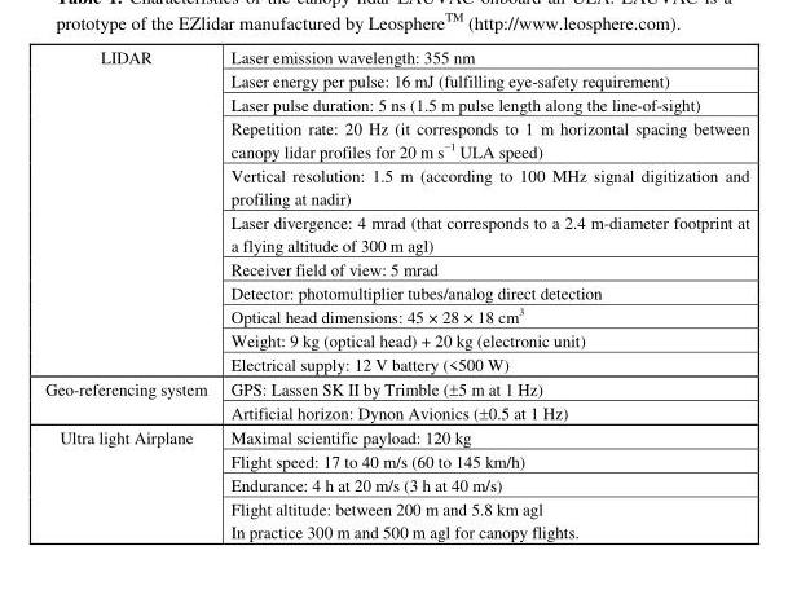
<table><tbody><tr><td rowspan="11">LIDAR</td><td>Laser emission wavelength: 355 nm</td></tr><tr><td>Laser energy per pulse: 16 mJ (fulfilling eye-safety requirement)</td></tr><tr><td>Laser pulse duration: 5 ns (1.5 m pulse length along the line-of-sight)</td></tr><tr><td>Repetition rate: 20 Hz (it corresponds to 1 m horizontal spacing between canopy lidar profiles for 20 m s<sup>−1</sup> ULA speed)</td></tr><tr><td>Vertical resolution: 1.5 m (according to 100 MHz signal digitization and profiling at nadir)</td></tr><tr><td>Laser divergence: 4 mrad (that corresponds to a 2.4 m-diameter footprint at a flying altitude of 300 m agl)</td></tr><tr><td>Receiver field of view: 5 mrad</td></tr><tr><td>Detector: photomultiplier tubes/analog direct detection</td></tr><tr><td>Optical head dimensions: 45 × 28 × 18 cm<sup>3</sup></td></tr><tr><td>Weight: 9 kg (optical head) + 20 kg (electronic unit)</td></tr><tr><td>Electrical supply: 12 V battery (&lt;500 W)</td></tr><tr><td rowspan="2">Geo-referencing system</td><td>GPS: Lassen SK II by Trimble (±5 m at 1 Hz)</td></tr><tr><td>Artificial horizon: Dynon Avionics (±0.5 at 1 Hz)</td></tr><tr><td rowspan="4">Ultra light Airplane</td><td>Maximal scientific payload: 120 kg</td></tr><tr><td>Flight speed: 17 to 40 m/s (60 to 145 km/h)</td></tr><tr><td>Endurance: 4 h at 20 m/s (3 h at 40 m/s)</td></tr><tr><td>Flight altitude: between 200 m and 5.8 km agl In practice 300 m and 500 m agl for canopy flights.</td></tr></tbody></table>